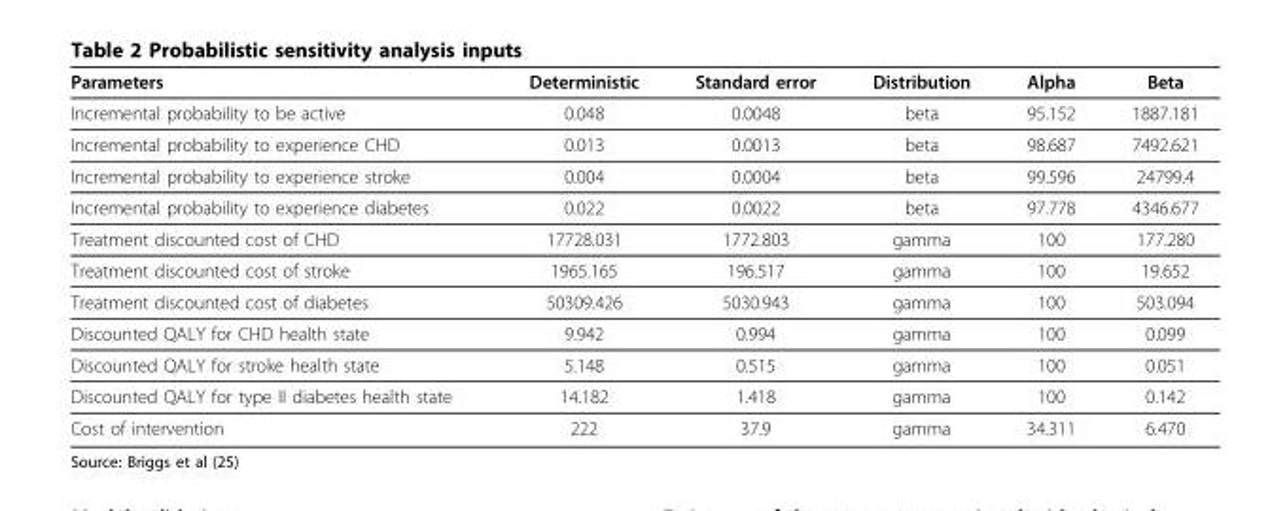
<table><thead><tr><td>Parameters</td><td>Deterministic</td><td>Standard error</td><td>Distribution</td><td>Alpha</td><td>Beta</td></tr></thead><tbody><tr><td>Incremental probability to be active</td><td>0.048</td><td>0.0048</td><td>beta</td><td>95.152</td><td>1887.181</td></tr><tr><td>Incremental probability to experience CHD</td><td>0.013</td><td>0.0013</td><td>beta</td><td>98.687</td><td>7492.621</td></tr><tr><td>Incremental probability to experience stroke</td><td>0.004</td><td>0.0004</td><td>beta</td><td>99.596</td><td>24799.4</td></tr><tr><td>Incremental probability to experience diabetes</td><td>0.022</td><td>0.0022</td><td>beta</td><td>97.778</td><td>4346.677</td></tr><tr><td>Treatment discounted cost of CHD</td><td>17728.031</td><td>1772.803</td><td>gamma</td><td>100</td><td>177.280</td></tr><tr><td>Treatment discounted cost of stroke</td><td>1965.165</td><td>196.517</td><td>gamma</td><td>100</td><td>19.652</td></tr><tr><td>Treatment discounted cost of diabetes</td><td>50309.426</td><td>5030.943</td><td>gamma</td><td>100</td><td>503.094</td></tr><tr><td>Discounted QALY for CHD health state</td><td>9.942</td><td>0.994</td><td>gamma</td><td>100</td><td>0.099</td></tr><tr><td>Discounted QALY for stroke health state</td><td>5.148</td><td>0.515</td><td>gamma</td><td>100</td><td>0.051</td></tr><tr><td>Discounted QALY for type II diabetes health state</td><td>14.182</td><td>1.418</td><td>gamma</td><td>100</td><td>0.142</td></tr><tr><td>Cost of intervention</td><td>222</td><td>37.9</td><td>gamma</td><td>34.311</td><td>6.470</td></tr></tbody></table>